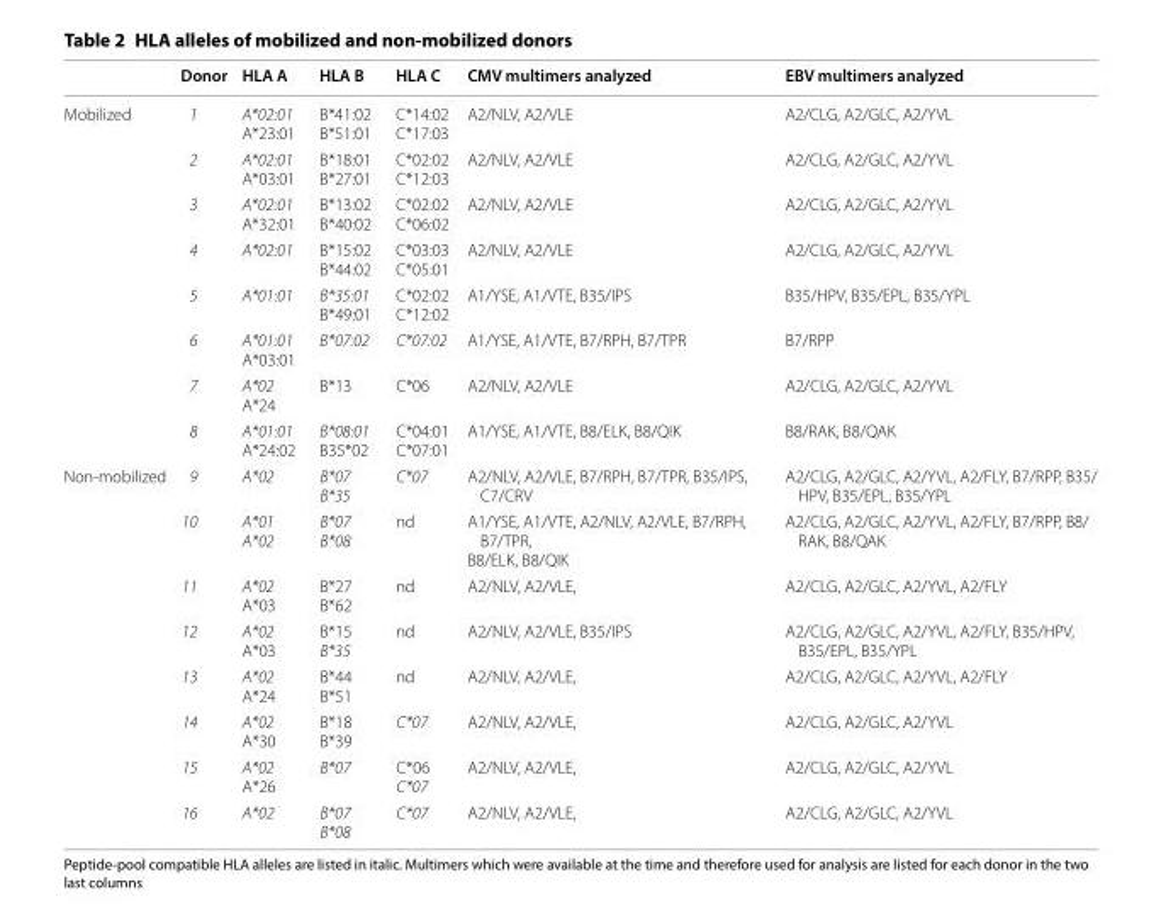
<table><thead><tr><td></td><td>Donor</td><td>HLA A</td><td>HLA B</td><td>HLA C</td><td>CMV multimers analyzed</td><td>EBV multimers analyzed</td></tr></thead><tbody><tr><td rowspan="8">Mobilized</td><td>1</td><td>A*02:01 A*23:01</td><td>B*41:02 B*51:01</td><td>C*14:02 C*17:03</td><td>A2/NLV, A2/VLE</td><td>A2/CLG, A2/GLC, A2/YVL</td></tr><tr><td>2</td><td>A*02:01 A*03:01</td><td>B*18:01 B*27:01</td><td>C*02:02 C*12:03</td><td>A2/NLV, A2/VLE</td><td>A2/CLG, A2/GLC, A2/YVL</td></tr><tr><td>3</td><td>A*02:01 A*32:01</td><td>B*13:02 B*40:02</td><td>C*02:02 C*06:02</td><td>A2/NLV, A2/VLE</td><td>A2/CLG, A2/GLC, A2/YVL</td></tr><tr><td>4</td><td>A*02:01</td><td>B*15:02 B*44:02</td><td>C*03:03 C*05:01</td><td>A2/NLV, A2/VLE</td><td>A2/CLG, A2/GLC, A2/YVL</td></tr><tr><td>5</td><td>A*01:01</td><td>B*35:01 B*49:01</td><td>C*02:02 C*12:02</td><td>A1/YSE, A1/VTE, B35/IPS</td><td>B35/HPV, B35/EPL, B35/YPL</td></tr><tr><td>6</td><td>A*01:01 A*03:01</td><td>B*07:02</td><td>C*07:02</td><td>A1/YSE, A1/VTE, B7/RPH, B7/TPR</td><td>B7/RPP</td></tr><tr><td>7</td><td>A*02 A*24</td><td>B*13</td><td>C*06</td><td>A2/NLV, A2/VLE</td><td>A2/CLG, A2/GLC, A2/YVL</td></tr><tr><td>8</td><td>A*01:01 A*24:02</td><td>B*08:01 B35*02</td><td>C*04:01 C*07:01</td><td>A1/YSE, A1/VTE, B8/ELK, B8/QIK</td><td>B8/RAK, B8/QAK</td></tr><tr><td rowspan="8">Non-mobilized</td><td>9</td><td>A*02</td><td>B*07 B*35</td><td>C*07</td><td>A2/NLV, A2/VLE, B7/RPH, B7/TPR, B35/IPS, C7/CRV</td><td>A2/CLG, A2/GLC, A2/YVL, A2/FLY, B7/RPP, B35/ HPV, B35/EPL, B35/YPL</td></tr><tr><td>10</td><td>A*01 A*02</td><td>B*07 B*08</td><td>nd</td><td>A1/YSE, A1/VTE, A2/NLV, A2/VLE, B7/RPH, B7/TPR, B8/ELK, B8/QIK</td><td>A2/CLG, A2/GLC, A2/YVL, A2/FLY, B7/RPP, B8/ RAK, B8/QAK</td></tr><tr><td>11</td><td>A*02 A*03</td><td>B*27 B*62</td><td>nd</td><td>A2/NLV, A2/VLE,</td><td>A2/CLG, A2/GLC, A2/YVL, A2/FLY</td></tr><tr><td>12</td><td>A*02 A*03</td><td>B*15 B*35</td><td>nd</td><td>A2/NLV, A2/VLE, B35/IPS</td><td>A2/CLG, A2/GLC, A2/YVL, A2/FLY, B35/HPV, B35/EPL, B35/YPL</td></tr><tr><td>13</td><td>A*02 A*24</td><td>B*44 B*51</td><td>nd</td><td>A2/NLV, A2/VLE,</td><td>A2/CLG, A2/GLC, A2/YVL, A2/FLY</td></tr><tr><td>14</td><td>A*02 A*30</td><td>B*18 B*39</td><td>C*07</td><td>A2/NLV, A2/VLE,</td><td>A2/CLG, A2/GLC, A2/YVL</td></tr><tr><td>15</td><td>A*02 A*26</td><td>B*07</td><td>C*06 C*07</td><td>A2/NLV, A2/VLE,</td><td>A2/CLG, A2/GLC, A2/YVL</td></tr><tr><td>16</td><td>A*02</td><td>B*07 B*08</td><td>C*07</td><td>A2/NLV, A2/VLE,</td><td>A2/CLG, A2/GLC, A2/YVL</td></tr></tbody></table>